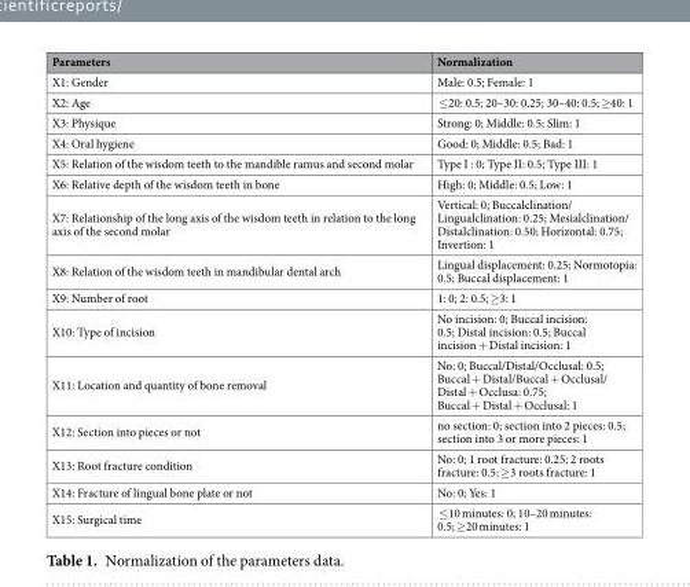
<table><thead><tr><td>Parameters</td><td>Normalization</td></tr></thead><tbody><tr><td>X1: Gender</td><td>Male: 0.5; Female: 1</td></tr><tr><td>X2: Age</td><td>≤20: 0.5; 20–30: 0.25; 30–40: 0.5; ≥40: 1</td></tr><tr><td>X3: Physique</td><td>Strong: 0; Middle: 0.5; Slim: 1</td></tr><tr><td>X4: Oral hygiene</td><td>Good: 0; Middle: 0.5; Bad: 1</td></tr><tr><td>X5: Relation of the wisdom teeth to the mandible ramus and second molar</td><td>Type I : 0; Type II: 0.5; Type III: 1</td></tr><tr><td>X6: Relative depth of the wisdom teeth in bone</td><td>High: 0; Middle: 0.5; Low: 1</td></tr><tr><td>X7: Relationship of the long axis of the wisdom teeth in relation to the long axis of the second molar</td><td>Vertical: 0; Buccalclination/ Lingualclination: 0.25; Mesialclination/ Distalclination: 0.50; Horizontal: 0.75; Invertion: 1</td></tr><tr><td>X8: Relation of the wisdom teeth in mandibular dental arch</td><td>Lingual displacement: 0.25; Normotopia: 0.5; Buccal displacement: 1</td></tr><tr><td>X9: Number of root</td><td>1: 0; 2: 0.5; ≥3: 1</td></tr><tr><td>X10: Type of incision</td><td>No incision: 0; Buccal incision: 0.5; Distal incision: 0.5; Buccal incision + Distal incision: 1</td></tr><tr><td>X11: Location and quantity of bone removal</td><td>No: 0; Buccal/Distal/Occlusal: 0.5; Buccal + Distal/Buccal + Occlusal/ Distal + Occlusa: 0.75; Buccal + Distal + Occlusal: 1</td></tr><tr><td>X12: Section into pieces or not</td><td>no section: 0; section into 2 pieces: 0.5; section into 3 or more pieces: 1</td></tr><tr><td>X13: Root fracture condition</td><td>No: 0; 1 root fracture: 0.25; 2 roots fracture: 0.5; ≥3 roots fracture: 1</td></tr><tr><td>X14: Fracture of lingual bone plate or not</td><td>No: 0; Yes: 1</td></tr><tr><td>X15: Surgical time</td><td>≤10 minutes: 0; 10–20 minutes: 0.5; ≥20 minutes: 1</td></tr></tbody></table>